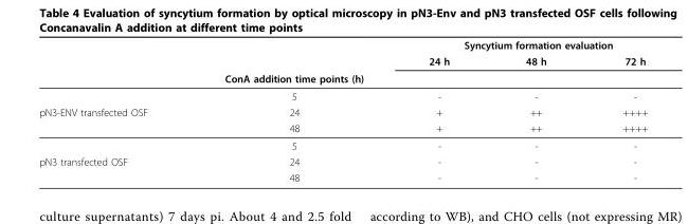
<table><thead><tr><td rowspan="3"></td><td rowspan="3">ConA addition time points (h)</td><td colspan="3">Syncytium formation evaluation</td></tr><tr><td rowspan="2">24 h</td><td rowspan="2">48 h</td><td rowspan="2">72 h</td></tr><tr></tr></thead><tbody><tr><td></td><td>5</td><td>-</td><td>-</td><td>-</td></tr><tr><td rowspan="3">pN3-ENV transfected OSF</td><td>24</td><td>+</td><td>++</td><td>++++</td></tr><tr><td>48</td><td>+</td><td>++</td><td>++++</td></tr><tr><td>5</td><td>-</td><td>-</td><td>-</td></tr><tr><td rowspan="2">pN3 transfected OSF</td><td>24</td><td>-</td><td>-</td><td>-</td></tr><tr><td>48</td><td>-</td><td>-</td><td>-</td></tr></tbody></table>